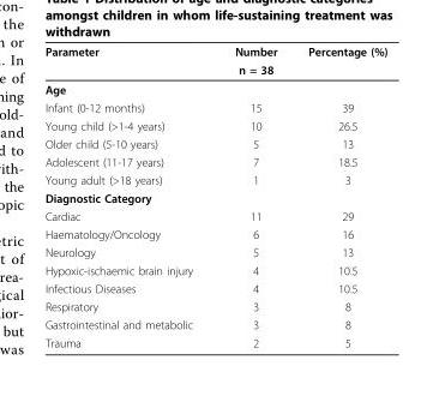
<table><thead><tr><td rowspan="2">Parameter</td><td rowspan="2">Number n = 38</td><td rowspan="2">Percentage (%)</td></tr><tr></tr></thead><tbody><tr><td colspan="3">Age</td></tr><tr><td>Infant (0-12 months)</td><td>15</td><td>39</td></tr><tr><td>Young child (&gt;1-4 years)</td><td>10</td><td>26.5</td></tr><tr><td>Older child (5-10 years)</td><td>5</td><td>13</td></tr><tr><td>Adolescent (11-17 years)</td><td>7</td><td>18.5</td></tr><tr><td>Young adult (&gt;18 years)</td><td>1</td><td>3</td></tr><tr><td colspan="3">Diagnostic Category</td></tr><tr><td>Cardiac</td><td>11</td><td>29</td></tr><tr><td>Haematology/Oncology</td><td>6</td><td>16</td></tr><tr><td>Neurology</td><td>5</td><td>13</td></tr><tr><td>Hypoxic-ischaemic brain injury</td><td>4</td><td>10.5</td></tr><tr><td>Infectious Diseases</td><td>4</td><td>10.5</td></tr><tr><td>Respiratory</td><td>3</td><td>8</td></tr><tr><td>Gastrointestinal and metabolic</td><td>3</td><td>8</td></tr><tr><td>Trauma</td><td>2</td><td>5</td></tr></tbody></table>